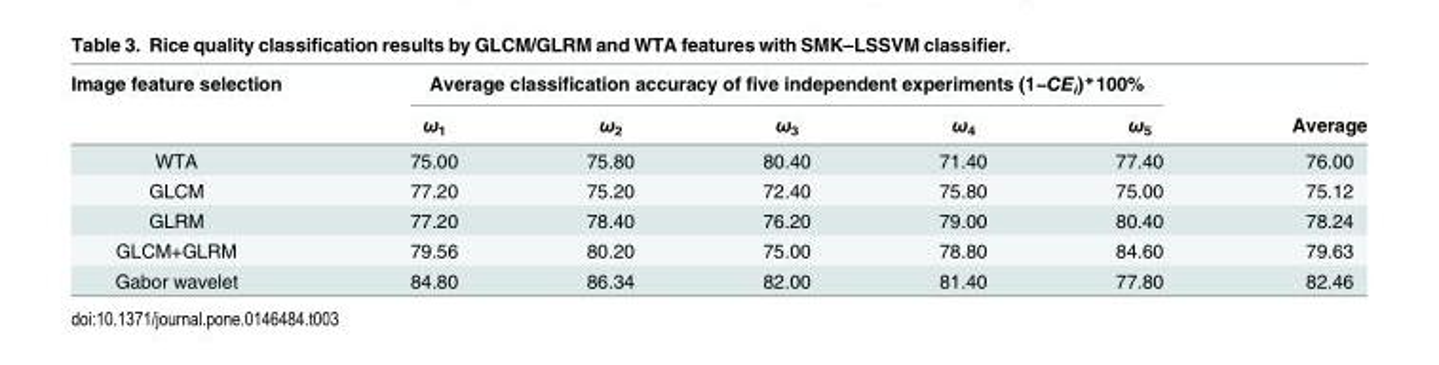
<table><thead><tr><td rowspan="2">Image feature selection</td><td colspan="5">Average classification accuracy of five independent experiments (1−CE<sub>i</sub>)*100%</td><td rowspan="2">Average</td></tr><tr><td>ω<sub>1</sub></td><td>ω<sub>2</sub></td><td>ω<sub>3</sub></td><td>ω<sub>4</sub></td><td>ω<sub>5</sub></td></tr></thead><tbody><tr><td>WTA</td><td>75.00</td><td>75.80</td><td>80.40</td><td>71.40</td><td>77.40</td><td>76.00</td></tr><tr><td>GLCM</td><td>77.20</td><td>75.20</td><td>72.40</td><td>75.80</td><td>75.00</td><td>75.12</td></tr><tr><td>GLRM</td><td>77.20</td><td>78.40</td><td>76.20</td><td>79.00</td><td>80.40</td><td>78.24</td></tr><tr><td>GLCM+GLRM</td><td>79.56</td><td>80.20</td><td>75.00</td><td>78.80</td><td>84.60</td><td>79.63</td></tr><tr><td>Gabor wavelet</td><td>84.80</td><td>86.34</td><td>82.00</td><td>81.40</td><td>77.80</td><td>82.46</td></tr></tbody></table>